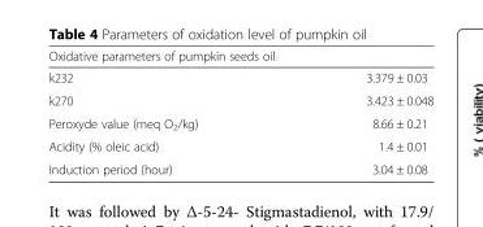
<table><thead><tr><td colspan="2">Oxidative parameters of pumpkin seeds oil</td></tr><tr><td>k232</td><td>3.379 ± 0.03</td></tr></thead><tbody><tr><td>k270</td><td>3.423 ± 0.048</td></tr><tr><td>Peroxyde value (meq O2/kg)</td><td>8.66 ± 0.21</td></tr><tr><td>Acidity (% oleic acid)</td><td>1.4 ± 0.01</td></tr><tr><td>Induction period (hour)</td><td>3.04 ± 0.08</td></tr></tbody></table>